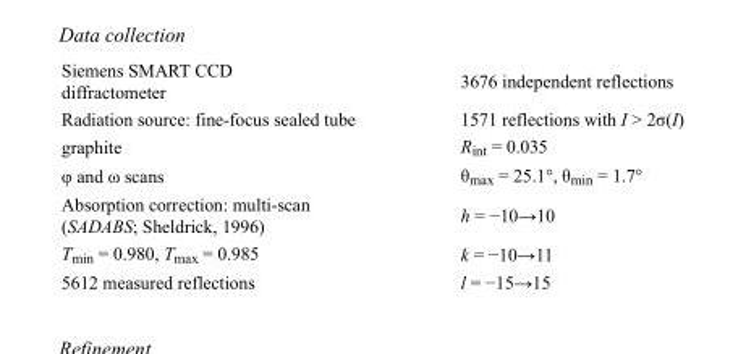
<table><tbody><tr><td>Siemens SMART CCD diffractometer</td><td>3676 independent reflections</td></tr><tr><td>Radiation source: fine-focus sealed tube</td><td>1571 reflections with I &gt; 2σ(I)</td></tr><tr><td>graphite</td><td>R<sub>int</sub> = 0.035</td></tr><tr><td>φ and ω scans</td><td>θ<sub>max</sub> = 25.1°, θ<sub>min</sub> = 1.7°</td></tr><tr><td>Absorption correction: multi-scan (SADABS; Sheldrick, 1996)</td><td>h = −10→10</td></tr><tr><td>T<sub>min</sub> = 0.980, T<sub>max</sub> = 0.985</td><td>k = −10→11</td></tr><tr><td>5612 measured reflections</td><td>l = −15→15</td></tr></tbody></table>